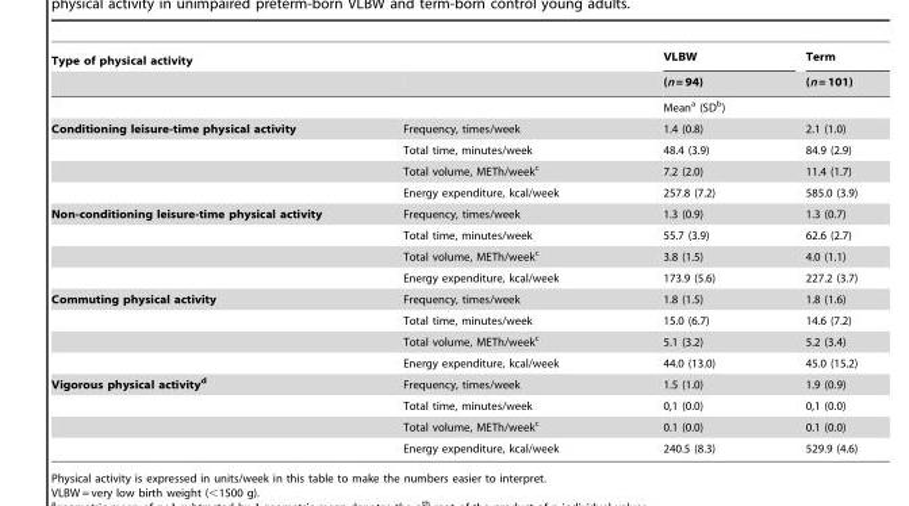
<table><thead><tr><td rowspan="2">Type of physical activity</td><td rowspan="2"></td><td rowspan="2">VLBW (n = 94)</td><td rowspan="2">Term (n = 101)</td></tr><tr></tr></thead><tbody><tr><td></td><td></td><td colspan="2">Mean<sup>a</sup> (SD<sup>b</sup>)</td></tr><tr><td rowspan="4">Conditioning leisure-time physical activity</td><td>Frequency, times/week</td><td>1.4 (0.8)</td><td>2.1 (1.0)</td></tr><tr><td>Total time, minutes/week</td><td>48.4 (3.9)</td><td>84.9 (2.9)</td></tr><tr><td>Total volume, METh/week<sup>c</sup></td><td>7.2 (2.0)</td><td>11.4 (1.7)</td></tr><tr><td>Energy expenditure, kcal/week</td><td>257.8 (7.2)</td><td>585.0 (3.9)</td></tr><tr><td rowspan="4">Non-conditioning leisure-time physical activity</td><td>Frequency, times/week</td><td>1.3 (0.9)</td><td>1.3 (0.7)</td></tr><tr><td>Total time, minutes/week</td><td>55.7 (3.9)</td><td>62.6 (2.7)</td></tr><tr><td>Total volume, METh/week<sup>c</sup></td><td>3.8 (1.5)</td><td>4.0 (1.1)</td></tr><tr><td>Energy expenditure, kcal/week</td><td>173.9 (5.6)</td><td>227.2 (3.7)</td></tr><tr><td rowspan="4">Commuting physical activity</td><td>Frequency, times/week</td><td>1.8 (1.5)</td><td>1.8 (1.6)</td></tr><tr><td>Total time, minutes/week</td><td>15.0 (6.7)</td><td>14.6 (7.2)</td></tr><tr><td>Total volume, METh/week<sup>c</sup></td><td>5.1 (3.2)</td><td>5.2 (3.4)</td></tr><tr><td>Energy expenditure, kcal/week</td><td>44.0 (13.0)</td><td>45.0 (15.2)</td></tr><tr><td rowspan="4">Vigorous physical activityd</td><td>Frequency, times/week</td><td>1.5 (1.0)</td><td>1.9 (0.9)</td></tr><tr><td>Total time, minutes/week</td><td>0,1 (0.0)</td><td>0,1 (0.0)</td></tr><tr><td>Total volume, METh/week<sup>c</sup></td><td>0.1 (0.0)</td><td>0.1 (0.0)</td></tr><tr><td>Energy expenditure, kcal/week</td><td>240.5 (8.3)</td><td>529.9 (4.6)</td></tr></tbody></table>